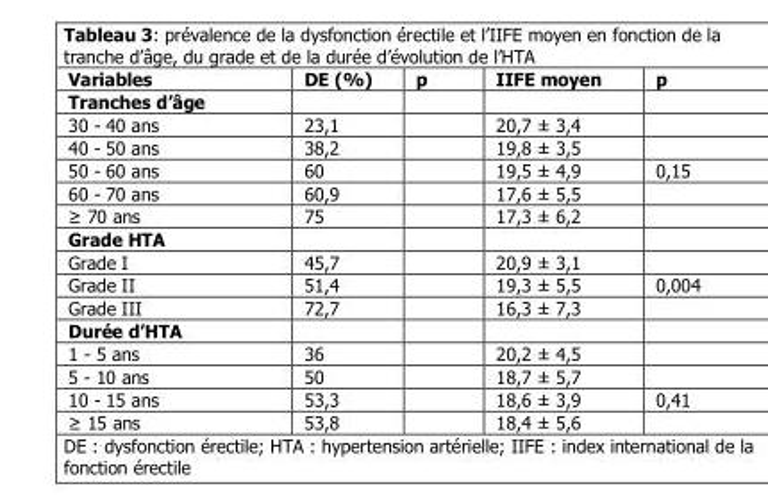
<table><thead><tr><td>Variables</td><td>DE (%)</td><td>p</td><td>IIFE moyen</td><td>p</td></tr></thead><tbody><tr><td colspan="5">Tranches d’âge</td></tr><tr><td>30 - 40 ans</td><td>23,1</td><td></td><td>20,7 ± 3,4</td><td></td></tr><tr><td>40 - 50 ans</td><td>38,2</td><td></td><td>19,8 ± 3,5</td><td></td></tr><tr><td>50 - 60 ans</td><td>60</td><td></td><td>19,5 ± 4,9</td><td>0,15</td></tr><tr><td>60 - 70 ans</td><td>60,9</td><td></td><td>17,6 ± 5,5</td><td></td></tr><tr><td>≥ 70 ans</td><td>75</td><td></td><td>17,3 ± 6,2</td><td></td></tr><tr><td colspan="5">Grade HTA</td></tr><tr><td>Grade I</td><td>45,7</td><td></td><td>20,9 ± 3,1</td><td></td></tr><tr><td>Grade II</td><td>51,4</td><td></td><td>19,3 ± 5,5</td><td>0,004</td></tr><tr><td>Grade III</td><td>72,7</td><td></td><td>16,3 ± 7,3</td><td></td></tr><tr><td colspan="5">Durée d’HTA</td></tr><tr><td>1 - 5 ans</td><td>36</td><td></td><td>20,2 ± 4,5</td><td></td></tr><tr><td>5 - 10 ans</td><td>50</td><td></td><td>18,7 ± 5,7</td><td></td></tr><tr><td>10 - 15 ans</td><td>53,3</td><td></td><td>18,6 ± 3,9</td><td>0,41</td></tr><tr><td>≥ 15 ans</td><td>53,8</td><td></td><td>18,4 ± 5,6</td><td></td></tr></tbody></table>